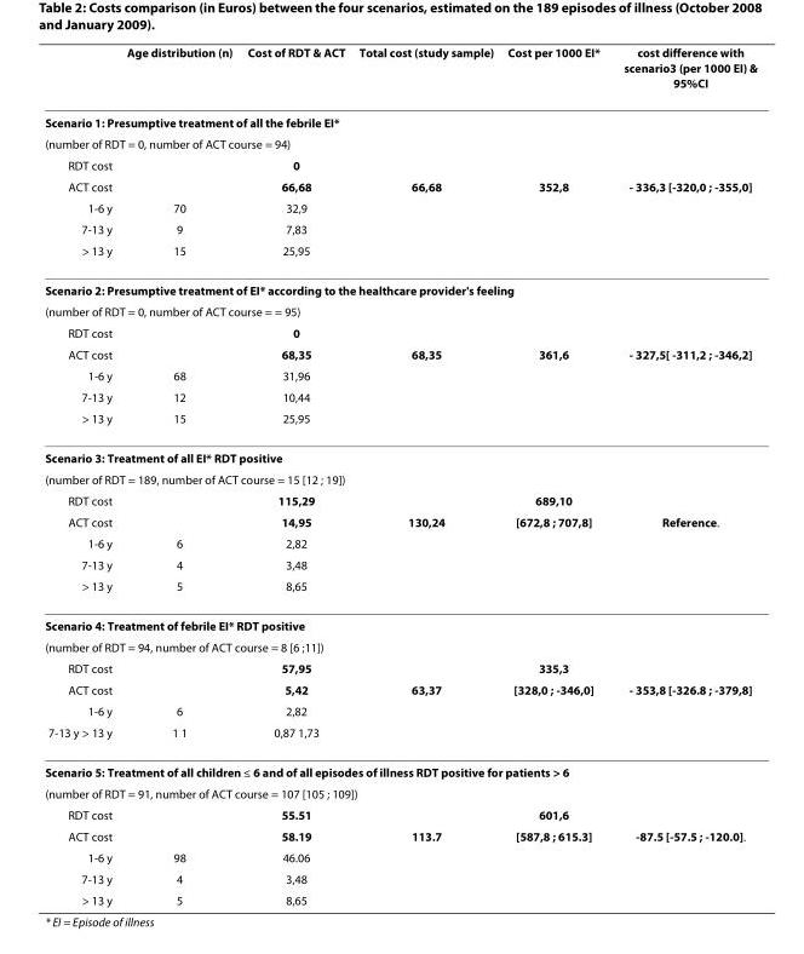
<table><thead><tr><td></td><td>Age distribution (n)</td><td>Cost of RDT &amp; ACT</td><td>Total cost (study sample)</td><td>Cost per 1000 EI*</td><td>cost difference with scenario3 (per 1000 EI) &amp; 95%CI</td></tr></thead><tbody><tr><td colspan="6">Scenario 1: Presumptive treatment of all the febrile EI*</td></tr><tr><td colspan="6">(number of RDT = 0, number of ACT course = 94)</td></tr><tr><td>RDT cost</td><td></td><td>0</td><td></td><td></td><td></td></tr><tr><td>ACT cost</td><td></td><td>66,68</td><td>66,68</td><td>352,8</td><td>- 336,3 [-320,0 ; -355,0]</td></tr><tr><td>1-6 y</td><td>70</td><td>32,9</td><td></td><td></td><td></td></tr><tr><td>7-13 y</td><td>9</td><td>7,83</td><td></td><td></td><td></td></tr><tr><td>&gt; 13 y</td><td>15</td><td>25,95</td><td></td><td></td><td></td></tr><tr><td colspan="6">Scenario 2: Presumptive treatment of EI* according to the healthcare provider&#x27;s feeling</td></tr><tr><td colspan="6">(number of RDT = 0, number of ACT course = = 95)</td></tr><tr><td>RDT cost</td><td></td><td>0</td><td></td><td></td><td></td></tr><tr><td>ACT cost</td><td></td><td>68,35</td><td>68,35</td><td>361,6</td><td>- 327,5[ -311,2 ; -346,2]</td></tr><tr><td>1-6 y</td><td>68</td><td>31,96</td><td></td><td></td><td></td></tr><tr><td>7-13 y</td><td>12</td><td>10,44</td><td></td><td></td><td></td></tr><tr><td>&gt; 13 y</td><td>15</td><td>25,95</td><td></td><td></td><td></td></tr><tr><td colspan="6">Scenario 3: Treatment of all EI* RDT positive</td></tr><tr><td colspan="6">(number of RDT = 189, number of ACT course = 15 [12 ; 19])</td></tr><tr><td>RDT cost</td><td></td><td>115,29</td><td></td><td>689,10</td><td></td></tr><tr><td>ACT cost</td><td></td><td>14,95</td><td>130,24</td><td>[672,8 ; 707,8]</td><td>Reference.</td></tr><tr><td>1-6 y</td><td>6</td><td>2,82</td><td></td><td></td><td></td></tr><tr><td>7-13 y</td><td>4</td><td>3,48</td><td></td><td></td><td></td></tr><tr><td>&gt; 13 y</td><td>5</td><td>8,65</td><td></td><td></td><td></td></tr><tr><td colspan="6">Scenario 4: Treatment of febrile EI* RDT positive</td></tr><tr><td colspan="6">(number of RDT = 94, number of ACT course = 8 [6 ;11])</td></tr><tr><td>RDT cost</td><td></td><td>57,95</td><td></td><td>335,3</td><td></td></tr><tr><td>ACT cost</td><td></td><td>5,42</td><td>63,37</td><td>[328,0 ; -346,0]</td><td>- 353,8 [-326.8 ; -379,8]</td></tr><tr><td>1-6 y</td><td>6</td><td>2,82</td><td></td><td></td><td></td></tr><tr><td>7-13 y &gt; 13 y</td><td>1 1</td><td>0,87 1,73</td><td></td><td></td><td></td></tr><tr><td colspan="6">Scenario 5: Treatment of all children ≤ 6 and of all episodes of illness RDT positive for patients &gt; 6</td></tr><tr><td colspan="6">(number of RDT = 91, number of ACT course = 107 [105 ; 109])</td></tr><tr><td>RDT cost</td><td></td><td>55.51</td><td></td><td>601,6</td><td></td></tr><tr><td>ACT cost</td><td></td><td>58.19</td><td>113.7</td><td>[587,8 ; 615.3]</td><td>-87.5 [-57.5 ; -120.0].</td></tr><tr><td>1-6 y</td><td>98</td><td>46.06</td><td></td><td></td><td></td></tr><tr><td>7-13 y</td><td>4</td><td>3,48</td><td></td><td></td><td></td></tr><tr><td>&gt; 13 y</td><td>5</td><td>8,65</td><td></td><td></td><td></td></tr></tbody></table>